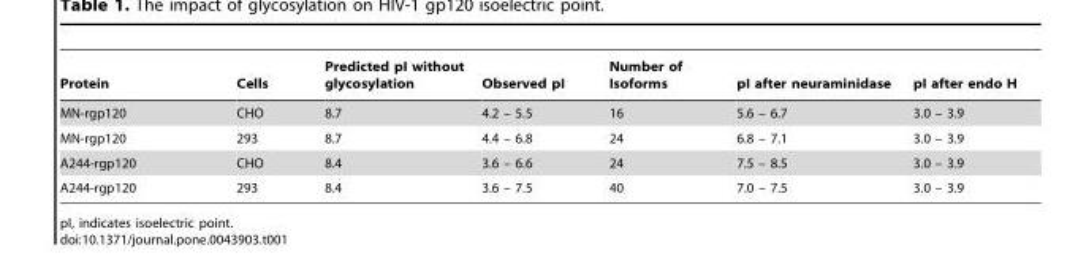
<table><thead><tr><td>Protein</td><td>Cells</td><td>Predicted pI without glycosylation</td><td>Observed pI</td><td>Number of Isoforms</td><td>pI after neuraminidase</td><td>pI after endo H</td></tr></thead><tbody><tr><td>MN-rgp120</td><td>CHO</td><td>8.7</td><td>4.2 – 5.5</td><td>16</td><td>5.6 – 6.7</td><td>3.0 – 3.9</td></tr><tr><td>MN-rgp120</td><td>293</td><td>8.7</td><td>4.4 – 6.8</td><td>24</td><td>6.8 – 7.1</td><td>3.0 – 3.9</td></tr><tr><td>A244-rgp120</td><td>CHO</td><td>8.4</td><td>3.6 – 6.6</td><td>24</td><td>7.5 – 8.5</td><td>3.0 – 3.9</td></tr><tr><td>A244-rgp120</td><td>293</td><td>8.4</td><td>3.6 – 7.5</td><td>40</td><td>7.0 – 7.5</td><td>3.0 – 3.9</td></tr></tbody></table>